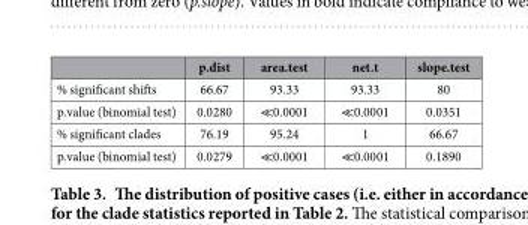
<table><thead><tr><td></td><td>p.dist</td><td>area.test</td><td>net.t</td><td>slope.test</td></tr></thead><tbody><tr><td>% significant shifts</td><td>66.67</td><td>93.33</td><td>93.33</td><td>80</td></tr><tr><td>p.value (binomial test)</td><td>0.0280</td><td>≪ 0.0001</td><td>≪ 0.0001</td><td>0.0351</td></tr><tr><td>% significant clades</td><td>76.19</td><td>95.24</td><td>1</td><td>66.67</td></tr><tr><td>p.value (binomial test)</td><td>0.0279</td><td>≪ 0.0001</td><td>≪ 0.0001</td><td>0.1890</td></tr></tbody></table>